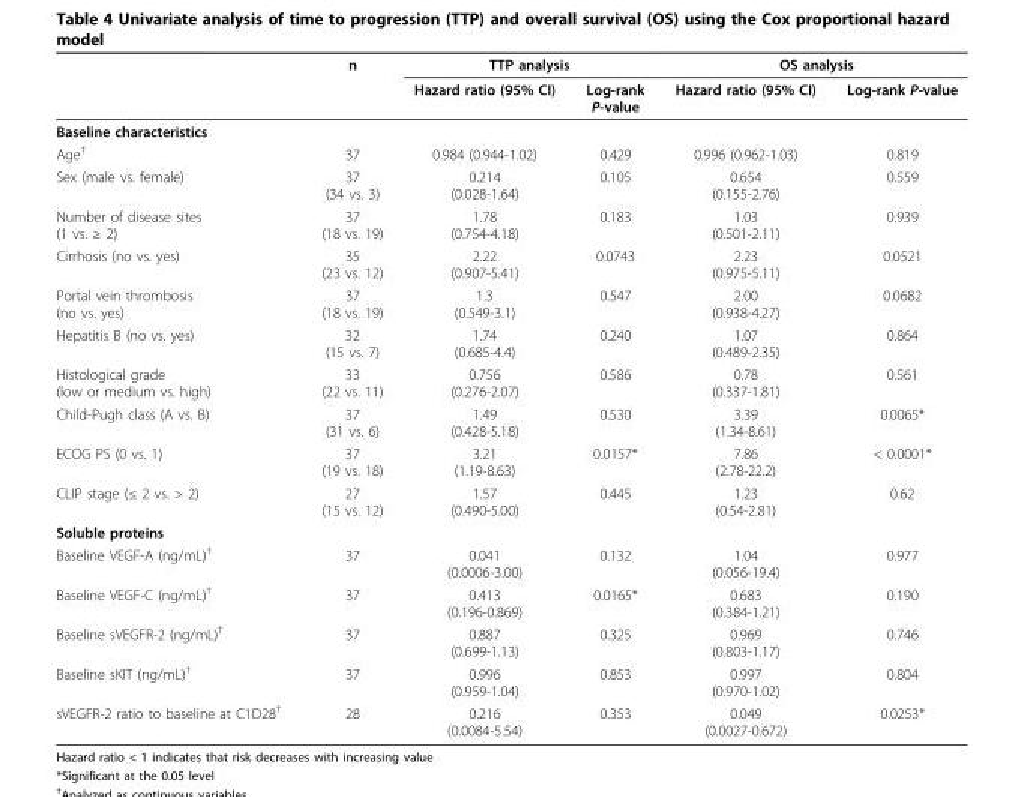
<table><thead><tr><td rowspan="2"></td><td rowspan="2">n</td><td colspan="2">TTP analysis</td><td colspan="2">OS analysis</td></tr><tr><td>Hazard ratio (95% CI)</td><td>Log-rank P-value</td><td>Hazard ratio (95% CI)</td><td>Log-rank P-value</td></tr></thead><tbody><tr><td colspan="6">Baseline characteristics</td></tr><tr><td>Age<sup>†</sup></td><td>37</td><td>0.984 (0.944-1.02)</td><td>0.429</td><td>0.996 (0.962-1.03)</td><td>0.819</td></tr><tr><td>Sex (male vs. female)</td><td>37 (34 vs. 3)</td><td>0.214 (0.028-1.64)</td><td>0.105</td><td>0.654 (0.155-2.76)</td><td>0.559</td></tr><tr><td>Number of disease sites (1 vs. ≥ 2)</td><td>37 (18 vs. 19)</td><td>1.78 (0.754-4.18)</td><td>0.183</td><td>1.03 (0.501-2.11)</td><td>0.939</td></tr><tr><td>Cirrhosis (no vs. yes)</td><td>35 (23 vs. 12)</td><td>2.22 (0.907-5.41)</td><td>0.0743</td><td>2.23 (0.975-5.11)</td><td>0.0521</td></tr><tr><td>Portal vein thrombosis (no vs. yes)</td><td>37 (18 vs. 19)</td><td>1.3 (0.549-3.1)</td><td>0.547</td><td>2.00 (0.938-4.27)</td><td>0.0682</td></tr><tr><td>Hepatitis B (no vs. yes)</td><td>32 (15 vs. 7)</td><td>1.74 (0.685-4.4)</td><td>0.240</td><td>1.07 (0.489-2.35)</td><td>0.864</td></tr><tr><td>Histological grade (low or medium vs. high)</td><td>33 (22 vs. 11)</td><td>0.756 (0.276-2.07)</td><td>0.586</td><td>0.78 (0.337-1.81)</td><td>0.561</td></tr><tr><td>Child-Pugh class (A vs. B)</td><td>37 (31 vs. 6)</td><td>1.49 (0.428-5.18)</td><td>0.530</td><td>3.39 (1.34-8.61)</td><td>0.0065*</td></tr><tr><td>ECOG PS (0 vs. 1)</td><td>37 (19 vs. 18)</td><td>3.21 (1.19-8.63)</td><td>0.0157*</td><td>7.86 (2.78-22.2)</td><td>&lt; 0.0001*</td></tr><tr><td>CLIP stage (≤ 2 vs. &gt; 2)</td><td>27 (15 vs. 12)</td><td>1.57 (0.490-5.00)</td><td>0.445</td><td>1.23 (0.54-2.81)</td><td>0.62</td></tr><tr><td colspan="6">Soluble proteins</td></tr><tr><td>Baseline VEGF-A (ng/mL)<sup>†</sup></td><td>37</td><td>0.041 (0.0006-3.00)</td><td>0.132</td><td>1.04 (0.056-19.4)</td><td>0.977</td></tr><tr><td>Baseline VEGF-C (ng/mL)<sup>†</sup></td><td>37</td><td>0.413 (0.196-0.869)</td><td>0.0165*</td><td>0.683 (0.384-1.21)</td><td>0.190</td></tr><tr><td>Baseline sVEGFR-2 (ng/mL)<sup>†</sup></td><td>37</td><td>0.887 (0.699-1.13)</td><td>0.325</td><td>0.969 (0.803-1.17)</td><td>0.746</td></tr><tr><td>Baseline sKIT (ng/mL)<sup>†</sup></td><td>37</td><td>0.996 (0.959-1.04)</td><td>0.853</td><td>0.997 (0.970-1.02)</td><td>0.804</td></tr><tr><td>sVEGFR-2 ratio to baseline at C1D28<sup>†</sup></td><td>28</td><td>0.216 (0.0084-5.54)</td><td>0.353</td><td>0.049 (0.0027-0.672)</td><td>0.0253*</td></tr></tbody></table>